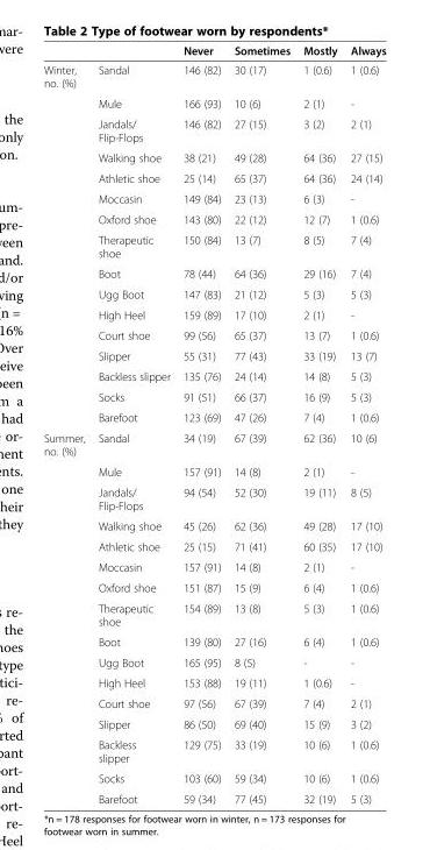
<table><thead><tr><td></td><td></td><td>Never</td><td>Sometimes</td><td>Mostly</td><td>Always</td></tr></thead><tbody><tr><td rowspan="16">Winter, no. (%)</td><td>Sandal</td><td>146 (82)</td><td>30 (17)</td><td>1 (0.6)</td><td>1 (0.6)</td></tr><tr><td>Mule</td><td>166 (93)</td><td>10 (6)</td><td>2 (1)</td><td>-</td></tr><tr><td>Jandals/ Flip-Flops</td><td>146 (82)</td><td>27 (15)</td><td>3 (2)</td><td>2 (1)</td></tr><tr><td>Walking shoe</td><td>38 (21)</td><td>49 (28)</td><td>64 (36)</td><td>27 (15)</td></tr><tr><td>Athletic shoe</td><td>25 (14)</td><td>65 (37)</td><td>64 (36)</td><td>24 (14)</td></tr><tr><td>Moccasin</td><td>149 (84)</td><td>23 (13)</td><td>6 (3)</td><td>-</td></tr><tr><td>Oxford shoe</td><td>143 (80)</td><td>22 (12)</td><td>12 (7)</td><td>1 (0.6)</td></tr><tr><td>Therapeutic shoe</td><td>150 (84)</td><td>13 (7)</td><td>8 (5)</td><td>7 (4)</td></tr><tr><td>Boot</td><td>78 (44)</td><td>64 (36)</td><td>29 (16)</td><td>7 (4)</td></tr><tr><td>Ugg Boot</td><td>147 (83)</td><td>21 (12)</td><td>5 (3)</td><td>5 (3)</td></tr><tr><td>High Heel</td><td>159 (89)</td><td>17 (10)</td><td>2 (1)</td><td>-</td></tr><tr><td>Court shoe</td><td>99 (56)</td><td>65 (37)</td><td>13 (7)</td><td>1 (0.6)</td></tr><tr><td>Slipper</td><td>55 (31)</td><td>77 (43)</td><td>33 (19)</td><td>13 (7)</td></tr><tr><td>Backless slipper</td><td>135 (76)</td><td>24 (14)</td><td>14 (8)</td><td>5 (3)</td></tr><tr><td>Socks</td><td>91 (51)</td><td>66 (37)</td><td>16 (9)</td><td>5 (3)</td></tr><tr><td>Barefoot</td><td>123 (69)</td><td>47 (26)</td><td>7 (4)</td><td>1 (0.6)</td></tr><tr><td rowspan="16">Summer, no. (%)</td><td>Sandal</td><td>34 (19)</td><td>67 (39)</td><td>62 (36)</td><td>10 (6)</td></tr><tr><td>Mule</td><td>157 (91)</td><td>14 (8)</td><td>2 (1)</td><td>-</td></tr><tr><td>Jandals/ Flip-Flops</td><td>94 (54)</td><td>52 (30)</td><td>19 (11)</td><td>8 (5)</td></tr><tr><td>Walking shoe</td><td>45 (26)</td><td>62 (36)</td><td>49 (28)</td><td>17 (10)</td></tr><tr><td>Athletic shoe</td><td>25 (15)</td><td>71 (41)</td><td>60 (35)</td><td>17 (10)</td></tr><tr><td>Moccasin</td><td>157 (91)</td><td>14 (8)</td><td>2 (1)</td><td>-</td></tr><tr><td>Oxford shoe</td><td>151 (87)</td><td>15 (9)</td><td>6 (4)</td><td>1 (0.6)</td></tr><tr><td>Therapeutic shoe</td><td>154 (89)</td><td>13 (8)</td><td>5 (3)</td><td>1 (0.6)</td></tr><tr><td>Boot</td><td>139 (80)</td><td>27 (16)</td><td>6 (4)</td><td>1 (0.6)</td></tr><tr><td>Ugg Boot</td><td>165 (95)</td><td>8 (5)</td><td>-</td><td>-</td></tr><tr><td>High Heel</td><td>153 (88)</td><td>19 (11)</td><td>1 (0.6)</td><td>-</td></tr><tr><td>Court shoe</td><td>97 (56)</td><td>67 (39)</td><td>7 (4)</td><td>2 (1)</td></tr><tr><td>Slipper</td><td>86 (50)</td><td>69 (40)</td><td>15 (9)</td><td>3 (2)</td></tr><tr><td>Backless slipper</td><td>129 (75)</td><td>33 (19)</td><td>10 (6)</td><td>1 (0.6)</td></tr><tr><td>Socks</td><td>103 (60)</td><td>59 (34)</td><td>10 (6)</td><td>1 (0.6)</td></tr><tr><td>Barefoot</td><td>59 (34)</td><td>77 (45)</td><td>32 (19)</td><td>5 (3)</td></tr></tbody></table>